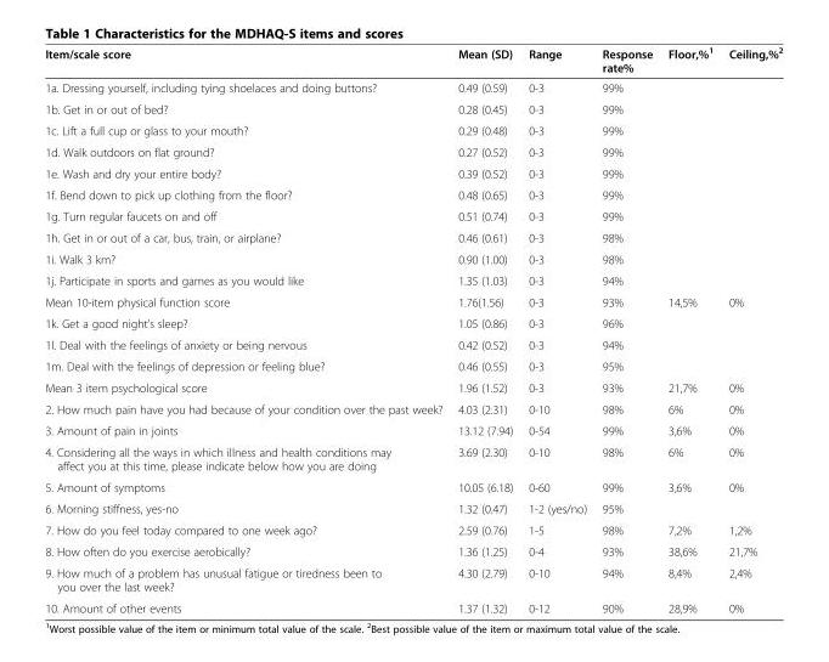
<table><thead><tr><td>Item/scale score</td><td>Mean (SD)</td><td>Range</td><td>Response rate%</td><td>Floor,%<sup>1</sup></td><td>Ceiling,%<sup>2</sup></td></tr></thead><tbody><tr><td>1a. Dressing yourself, including tying shoelaces and doing buttons?</td><td>0.49 (0.59)</td><td>0-3</td><td>99%</td><td></td><td></td></tr><tr><td>1b. Get in or out of bed?</td><td>0.28 (0.45)</td><td>0-3</td><td>99%</td><td></td><td></td></tr><tr><td>1c. Lift a full cup or glass to your mouth?</td><td>0.29 (0.48)</td><td>0-3</td><td>99%</td><td></td><td></td></tr><tr><td>1d. Walk outdoors on flat ground?</td><td>0.27 (0.52)</td><td>0-3</td><td>99%</td><td></td><td></td></tr><tr><td>1e. Wash and dry your entire body?</td><td>0.39 (0.52)</td><td>0-3</td><td>99%</td><td></td><td></td></tr><tr><td>1f. Bend down to pick up clothing from the floor?</td><td>0.48 (0.65)</td><td>0-3</td><td>99%</td><td></td><td></td></tr><tr><td>1g. Turn regular faucets on and off</td><td>0.51 (0.74)</td><td>0-3</td><td>99%</td><td></td><td></td></tr><tr><td>1h. Get in or out of a car, bus, train, or airplane?</td><td>0.46 (0.61)</td><td>0-3</td><td>98%</td><td></td><td></td></tr><tr><td>1i. Walk 3 km?</td><td>0.90 (1.00)</td><td>0-3</td><td>98%</td><td></td><td></td></tr><tr><td>1j. Participate in sports and games as you would like</td><td>1.35 (1.03)</td><td>0-3</td><td>94%</td><td></td><td></td></tr><tr><td>Mean 10-item physical function score</td><td>1.76(1.56)</td><td>0-3</td><td>93%</td><td>14,5%</td><td>0%</td></tr><tr><td>1k. Get a good night’s sleep?</td><td>1.05 (0.86)</td><td>0-3</td><td>96%</td><td></td><td></td></tr><tr><td>1l. Deal with the feelings of anxiety or being nervous</td><td>0.42 (0.52)</td><td>0-3</td><td>94%</td><td></td><td></td></tr><tr><td>1m. Deal with the feelings of depression or feeling blue?</td><td>0.46 (0.55)</td><td>0-3</td><td>95%</td><td></td><td></td></tr><tr><td>Mean 3 item psychological score</td><td>1.96 (1.52)</td><td>0-3</td><td>93%</td><td>21,7%</td><td>0%</td></tr><tr><td>2. How much pain have you had because of your condition over the past week?</td><td>4.03 (2.31)</td><td>0-10</td><td>98%</td><td>6%</td><td>0%</td></tr><tr><td>3. Amount of pain in joints</td><td>13.12 (7.94)</td><td>0-54</td><td>99%</td><td>3,6%</td><td>0%</td></tr><tr><td>4. Considering all the ways in which illness and health conditions may affect you at this time, please indicate below how you are doing</td><td>3.69 (2.30)</td><td>0-10</td><td>98%</td><td>6%</td><td>0%</td></tr><tr><td>5. Amount of symptoms</td><td>10.05 (6.18)</td><td>0-60</td><td>99%</td><td>3,6%</td><td>0%</td></tr><tr><td>6. Morning stiffness, yes-no</td><td>1.32 (0.47)</td><td>1-2 (yes/no)</td><td>95%</td><td></td><td></td></tr><tr><td>7. How do you feel today compared to one week ago?</td><td>2.59 (0.76)</td><td>1-5</td><td>98%</td><td>7,2%</td><td>1,2%</td></tr><tr><td>8. How often do you exercise aerobically?</td><td>1.36 (1.25)</td><td>0-4</td><td>93%</td><td>38,6%</td><td>21,7%</td></tr><tr><td>9. How much of a problem has unusual fatigue or tiredness been to you over the last week?</td><td>4.30 (2.79)</td><td>0-10</td><td>94%</td><td>8,4%</td><td>2,4%</td></tr><tr><td>10. Amount of other events</td><td>1.37 (1.32)</td><td>0-12</td><td>90%</td><td>28,9%</td><td>0%</td></tr></tbody></table>